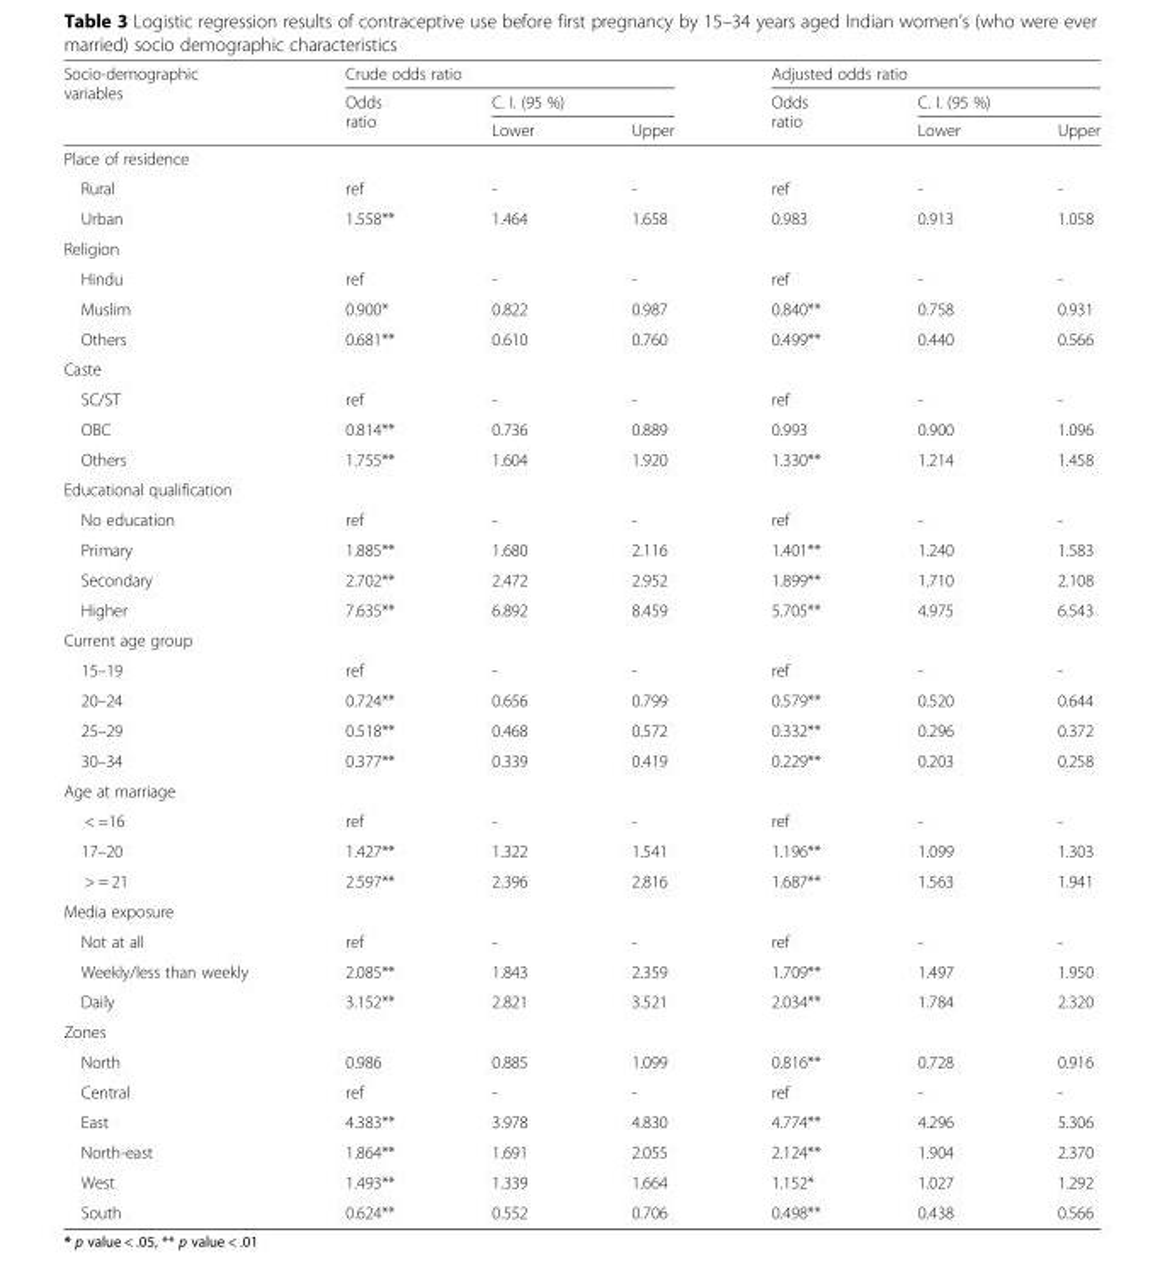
<table><thead><tr><td rowspan="3">Socio-demographic variables</td><td colspan="3">Crude odds ratio</td><td colspan="3">Adjusted odds ratio</td></tr><tr><td rowspan="2">Odds ratio</td><td colspan="2">C. I. (95 %)</td><td rowspan="2">Odds ratio</td><td colspan="2">C. I. (95 %)</td></tr><tr><td>Lower</td><td>Upper</td><td>Lower</td><td>Upper</td></tr></thead><tbody><tr><td colspan="7">Place of residence</td></tr><tr><td>Rural</td><td>ref</td><td>-</td><td>-</td><td>ref</td><td>-</td><td>-</td></tr><tr><td>Urban</td><td>1.558**</td><td>1.464</td><td>1.658</td><td>0.983</td><td>0.913</td><td>1.058</td></tr><tr><td colspan="7">Religion</td></tr><tr><td>Hindu</td><td>ref</td><td>-</td><td>-</td><td>ref</td><td>-</td><td>-</td></tr><tr><td>Muslim</td><td>0.900*</td><td>0.822</td><td>0.987</td><td>0.840**</td><td>0.758</td><td>0.931</td></tr><tr><td>Others</td><td>0.681**</td><td>0.610</td><td>0.760</td><td>0.499**</td><td>0.440</td><td>0.566</td></tr><tr><td colspan="7">Caste</td></tr><tr><td>SC/ST</td><td>ref</td><td>-</td><td>-</td><td>ref</td><td>-</td><td>-</td></tr><tr><td>OBC</td><td>0.814**</td><td>0.736</td><td>0.889</td><td>0.993</td><td>0.900</td><td>1.096</td></tr><tr><td>Others</td><td>1.755**</td><td>1.604</td><td>1.920</td><td>1.330**</td><td>1.214</td><td>1.458</td></tr><tr><td colspan="7">Educational qualification</td></tr><tr><td>No education</td><td>ref</td><td>-</td><td>-</td><td>ref</td><td>-</td><td>-</td></tr><tr><td>Primary</td><td>1.885**</td><td>1.680</td><td>2.116</td><td>1.401**</td><td>1.240</td><td>1.583</td></tr><tr><td>Secondary</td><td>2.702**</td><td>2.472</td><td>2.952</td><td>1.899**</td><td>1.710</td><td>2.108</td></tr><tr><td>Higher</td><td>7.635**</td><td>6.892</td><td>8.459</td><td>5.705**</td><td>4.975</td><td>6.543</td></tr><tr><td colspan="7">Current age group</td></tr><tr><td>15–19</td><td>ref</td><td>-</td><td>-</td><td>ref</td><td>-</td><td>-</td></tr><tr><td>20–24</td><td>0.724**</td><td>0.656</td><td>0.799</td><td>0.579**</td><td>0.520</td><td>0.644</td></tr><tr><td>25–29</td><td>0.518**</td><td>0.468</td><td>0.572</td><td>0.332**</td><td>0.296</td><td>0.372</td></tr><tr><td>30–34</td><td>0.377**</td><td>0.339</td><td>0.419</td><td>0.229**</td><td>0.203</td><td>0.258</td></tr><tr><td colspan="7">Age at marriage</td></tr><tr><td>&lt; =16</td><td>ref</td><td>-</td><td>-</td><td>ref</td><td>-</td><td>-</td></tr><tr><td>17–20</td><td>1.427**</td><td>1.322</td><td>1.541</td><td>1.196**</td><td>1.099</td><td>1.303</td></tr><tr><td>&gt; = 21</td><td>2.597**</td><td>2.396</td><td>2.816</td><td>1.687**</td><td>1.563</td><td>1.941</td></tr><tr><td colspan="7">Media exposure</td></tr><tr><td>Not at all</td><td>ref</td><td>-</td><td>-</td><td>ref</td><td>-</td><td>-</td></tr><tr><td>Weekly/less than weekly</td><td>2.085**</td><td>1.843</td><td>2.359</td><td>1.709**</td><td>1.497</td><td>1.950</td></tr><tr><td>Daily</td><td>3.152**</td><td>2.821</td><td>3.521</td><td>2.034**</td><td>1.784</td><td>2.320</td></tr><tr><td colspan="7">Zones</td></tr><tr><td>North</td><td>0.986</td><td>0.885</td><td>1.099</td><td>0.816**</td><td>0.728</td><td>0.916</td></tr><tr><td>Central</td><td>ref</td><td>-</td><td>-</td><td>ref</td><td>-</td><td>-</td></tr><tr><td>East</td><td>4.383**</td><td>3.978</td><td>4.830</td><td>4.774**</td><td>4.296</td><td>5.306</td></tr><tr><td>North-east</td><td>1.864**</td><td>1.691</td><td>2.055</td><td>2.124**</td><td>1.904</td><td>2.370</td></tr><tr><td>West</td><td>1.493**</td><td>1.339</td><td>1.664</td><td>1.152*</td><td>1.027</td><td>1.292</td></tr><tr><td>South</td><td>0.624**</td><td>0.552</td><td>0.706</td><td>0.498**</td><td>0.438</td><td>0.566</td></tr></tbody></table>